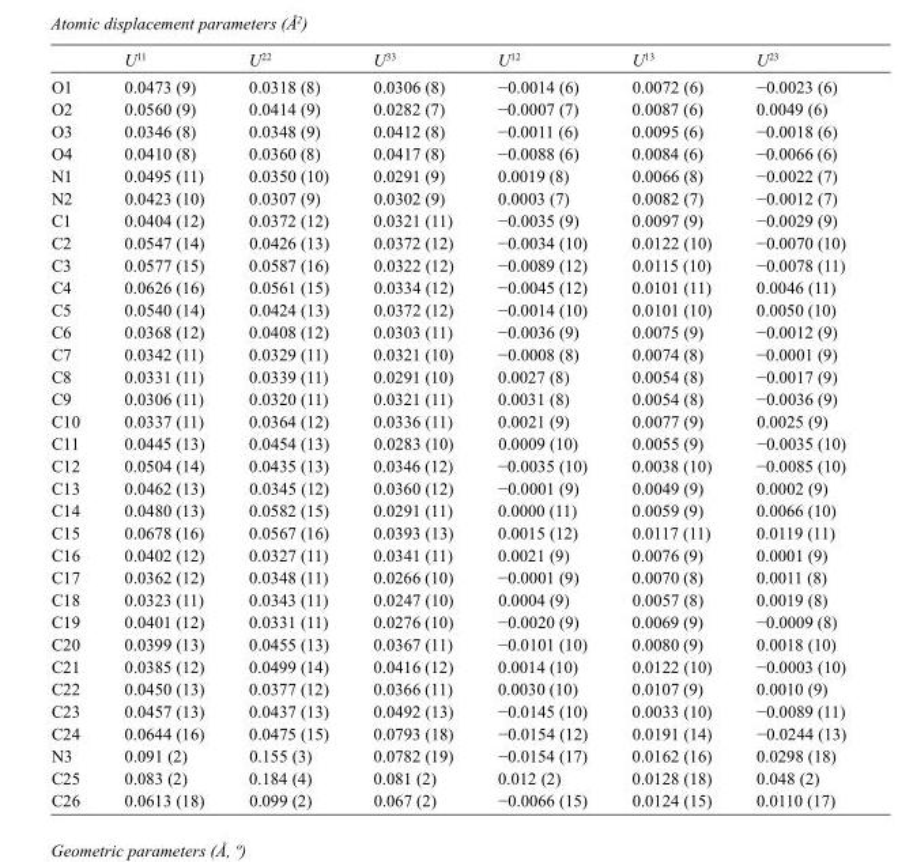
<table><thead><tr><td></td><td>U<sup>11</sup></td><td>U<sup>22</sup></td><td>U<sup>33</sup></td><td>U<sup>12</sup></td><td>U<sup>13</sup></td><td>U<sup>23</sup></td></tr></thead><tbody><tr><td>O1</td><td>0.0473 (9)</td><td>0.0318 (8)</td><td>0.0306 (8)</td><td>−0.0014 (6)</td><td>0.0072 (6)</td><td>−0.0023 (6)</td></tr><tr><td>O2</td><td>0.0560 (9)</td><td>0.0414 (9)</td><td>0.0282 (7)</td><td>−0.0007 (7)</td><td>0.0087 (6)</td><td>0.0049 (6)</td></tr><tr><td>O3</td><td>0.0346 (8)</td><td>0.0348 (9)</td><td>0.0412 (8)</td><td>−0.0011 (6)</td><td>0.0095 (6)</td><td>−0.0018 (6)</td></tr><tr><td>O4</td><td>0.0410 (8)</td><td>0.0360 (8)</td><td>0.0417 (8)</td><td>−0.0088 (6)</td><td>0.0084 (6)</td><td>−0.0066 (6)</td></tr><tr><td>N1</td><td>0.0495 (11)</td><td>0.0350 (10)</td><td>0.0291 (9)</td><td>0.0019 (8)</td><td>0.0066 (8)</td><td>−0.0022 (7)</td></tr><tr><td>N2</td><td>0.0423 (10)</td><td>0.0307 (9)</td><td>0.0302 (9)</td><td>0.0003 (7)</td><td>0.0082 (7)</td><td>−0.0012 (7)</td></tr><tr><td>C1</td><td>0.0404 (12)</td><td>0.0372 (12)</td><td>0.0321 (11)</td><td>−0.0035 (9)</td><td>0.0097 (9)</td><td>−0.0029 (9)</td></tr><tr><td>C2</td><td>0.0547 (14)</td><td>0.0426 (13)</td><td>0.0372 (12)</td><td>−0.0034 (10)</td><td>0.0122 (10)</td><td>−0.0070 (10)</td></tr><tr><td>C3</td><td>0.0577 (15)</td><td>0.0587 (16)</td><td>0.0322 (12)</td><td>−0.0089 (12)</td><td>0.0115 (10)</td><td>−0.0078 (11)</td></tr><tr><td>C4</td><td>0.0626 (16)</td><td>0.0561 (15)</td><td>0.0334 (12)</td><td>−0.0045 (12)</td><td>0.0101 (11)</td><td>0.0046 (11)</td></tr><tr><td>C5</td><td>0.0540 (14)</td><td>0.0424 (13)</td><td>0.0372 (12)</td><td>−0.0014 (10)</td><td>0.0101 (10)</td><td>0.0050 (10)</td></tr><tr><td>C6</td><td>0.0368 (12)</td><td>0.0408 (12)</td><td>0.0303 (11)</td><td>−0.0036 (9)</td><td>0.0075 (9)</td><td>−0.0012 (9)</td></tr><tr><td>C7</td><td>0.0342 (11)</td><td>0.0329 (11)</td><td>0.0321 (10)</td><td>−0.0008 (8)</td><td>0.0074 (8)</td><td>−0.0001 (9)</td></tr><tr><td>C8</td><td>0.0331 (11)</td><td>0.0339 (11)</td><td>0.0291 (10)</td><td>0.0027 (8)</td><td>0.0054 (8)</td><td>−0.0017 (9)</td></tr><tr><td>C9</td><td>0.0306 (11)</td><td>0.0320 (11)</td><td>0.0321 (11)</td><td>0.0031 (8)</td><td>0.0054 (8)</td><td>−0.0036 (9)</td></tr><tr><td>C10</td><td>0.0337 (11)</td><td>0.0364 (12)</td><td>0.0336 (11)</td><td>0.0021 (9)</td><td>0.0077 (9)</td><td>0.0025 (9)</td></tr><tr><td>C11</td><td>0.0445 (13)</td><td>0.0454 (13)</td><td>0.0283 (10)</td><td>0.0009 (10)</td><td>0.0055 (9)</td><td>−0.0035 (10)</td></tr><tr><td>C12</td><td>0.0504 (14)</td><td>0.0435 (13)</td><td>0.0346 (12)</td><td>−0.0035 (10)</td><td>0.0038 (10)</td><td>−0.0085 (10)</td></tr><tr><td>C13</td><td>0.0462 (13)</td><td>0.0345 (12)</td><td>0.0360 (12)</td><td>−0.0001 (9)</td><td>0.0049 (9)</td><td>0.0002 (9)</td></tr><tr><td>C14</td><td>0.0480 (13)</td><td>0.0582 (15)</td><td>0.0291 (11)</td><td>0.0000 (11)</td><td>0.0059 (9)</td><td>0.0066 (10)</td></tr><tr><td>C15</td><td>0.0678 (16)</td><td>0.0567 (16)</td><td>0.0393 (13)</td><td>0.0015 (12)</td><td>0.0117 (11)</td><td>0.0119 (11)</td></tr><tr><td>C16</td><td>0.0402 (12)</td><td>0.0327 (11)</td><td>0.0341 (11)</td><td>0.0021 (9)</td><td>0.0076 (9)</td><td>0.0001 (9)</td></tr><tr><td>C17</td><td>0.0362 (12)</td><td>0.0348 (11)</td><td>0.0266 (10)</td><td>−0.0001 (9)</td><td>0.0070 (8)</td><td>0.0011 (8)</td></tr><tr><td>C18</td><td>0.0323 (11)</td><td>0.0343 (11)</td><td>0.0247 (10)</td><td>0.0004 (9)</td><td>0.0057 (8)</td><td>0.0019 (8)</td></tr><tr><td>C19</td><td>0.0401 (12)</td><td>0.0331 (11)</td><td>0.0276 (10)</td><td>−0.0020 (9)</td><td>0.0069 (9)</td><td>−0.0009 (8)</td></tr><tr><td>C20</td><td>0.0399 (13)</td><td>0.0455 (13)</td><td>0.0367 (11)</td><td>−0.0101 (10)</td><td>0.0080 (9)</td><td>0.0018 (10)</td></tr><tr><td>C21</td><td>0.0385 (12)</td><td>0.0499 (14)</td><td>0.0416 (12)</td><td>0.0014 (10)</td><td>0.0122 (10)</td><td>−0.0003 (10)</td></tr><tr><td>C22</td><td>0.0450 (13)</td><td>0.0377 (12)</td><td>0.0366 (11)</td><td>0.0030 (10)</td><td>0.0107 (9)</td><td>0.0010 (9)</td></tr><tr><td>C23</td><td>0.0457 (13)</td><td>0.0437 (13)</td><td>0.0492 (13)</td><td>−0.0145 (10)</td><td>0.0033 (10)</td><td>−0.0089 (11)</td></tr><tr><td>C24</td><td>0.0644 (16)</td><td>0.0475 (15)</td><td>0.0793 (18)</td><td>−0.0154 (12)</td><td>0.0191 (14)</td><td>−0.0244 (13)</td></tr><tr><td>N3</td><td>0.091 (2)</td><td>0.155 (3)</td><td>0.0782 (19)</td><td>−0.0154 (17)</td><td>0.0162 (16)</td><td>0.0298 (18)</td></tr><tr><td>C25</td><td>0.083 (2)</td><td>0.184 (4)</td><td>0.081 (2)</td><td>0.012 (2)</td><td>0.0128 (18)</td><td>0.048 (2)</td></tr><tr><td>C26</td><td>0.0613 (18)</td><td>0.099 (2)</td><td>0.067 (2)</td><td>−0.0066 (15)</td><td>0.0124 (15)</td><td>0.0110 (17)</td></tr></tbody></table>